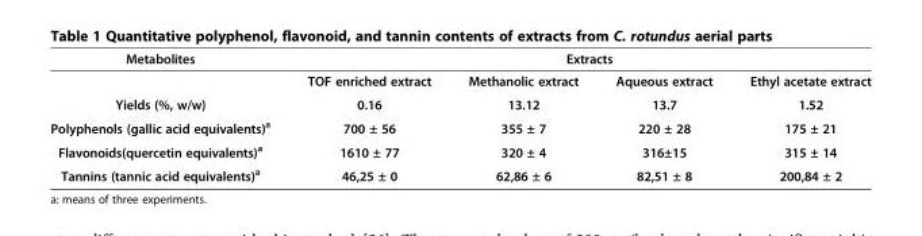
<table><thead><tr><td rowspan="2">Metabolites</td><td colspan="4">Extracts</td></tr><tr><td>TOF enriched extract</td><td>Methanolic extract</td><td>Aqueous extract</td><td>Ethyl acetate extract</td></tr></thead><tbody><tr><td>Yields (%, w/w)</td><td>0.16</td><td>13.12</td><td>13.7</td><td>1.52</td></tr><tr><td>Polyphenols (gallic acid equivalents)<sup>a</sup></td><td>700 ± 56</td><td>355 ± 7</td><td>220 ± 28</td><td>175 ± 21</td></tr><tr><td>Flavonoids(quercetin equivalents)<sup>a</sup></td><td>1610 ± 77</td><td>320 ± 4</td><td>316±15</td><td>315 ± 14</td></tr><tr><td>Tannins (tannic acid equivalents)<sup>a</sup></td><td>46,25 ± 0</td><td>62,86 ± 6</td><td>82,51 ± 8</td><td>200,84 ± 2</td></tr></tbody></table>